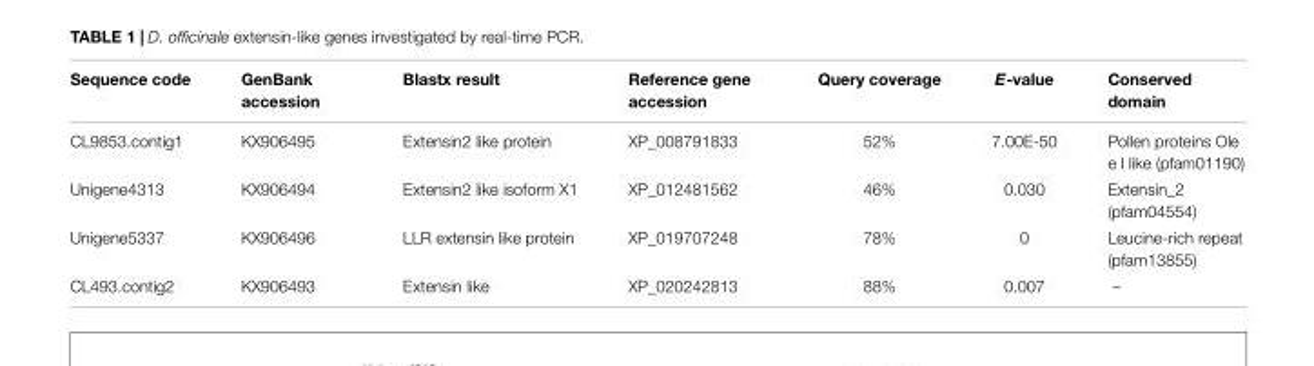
<table><thead><tr><td>Sequence code</td><td>GenBank accession</td><td>Blastx result</td><td>Reference gene accession</td><td>Query coverage</td><td>E-value</td><td>Conserved domain</td></tr></thead><tbody><tr><td>CL9853.contig1</td><td>KX906495</td><td>Extensin2 like protein</td><td>XP_008791833</td><td>52%</td><td>7.00E-50</td><td>Pollen proteins Ole e I like (pfam01190)</td></tr><tr><td>Unigene4313</td><td>KX906494</td><td>Extensin2 like isoform X1</td><td>XP_012481562</td><td>46%</td><td>0.030</td><td>Extensin_2 (pfam04554)</td></tr><tr><td>Unigene5337</td><td>KX906496</td><td>LLR extensin like protein</td><td>XP_019707248</td><td>78%</td><td>0</td><td>Leucine-rich repeat (pfam13855)</td></tr><tr><td>CL493.contig2</td><td>KX906493</td><td>Extensin like</td><td>XP_020242813</td><td>88%</td><td>0.007</td><td>–</td></tr></tbody></table>